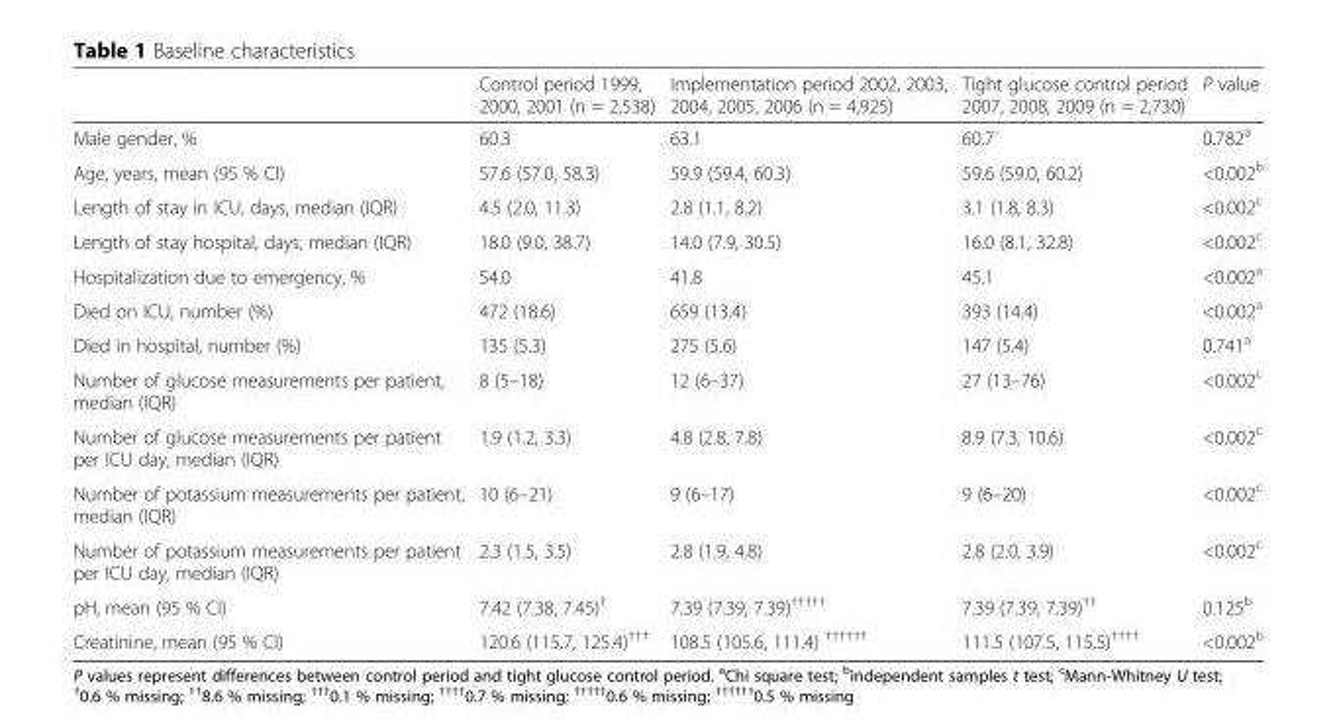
<table><thead><tr><td></td><td>Control period 1999, 2000, 2001 (n = 2,538)</td><td>Implementation period 2002, 2003, 2004, 2005, 2006 (n = 4,925)</td><td>Tight glucose control period 2007, 2008, 2009 (n = 2,730)</td><td>P value</td></tr></thead><tbody><tr><td>Male gender, %</td><td>60.3</td><td>63.1</td><td>60.7</td><td>0.782<sup>a</sup></td></tr><tr><td>Age, years, mean (95 % CI)</td><td>57.6 (57.0, 58.3)</td><td>59.9 (59.4, 60.3)</td><td>59.6 (59.0, 60.2)</td><td>&lt;0.002<sup>b</sup></td></tr><tr><td>Length of stay in ICU, days, median (IQR)</td><td>4.5 (2.0, 11.3)</td><td>2.8 (1.1, 8.2)</td><td>3.1 (1.8, 8.3)</td><td>&lt;0.002<sup>c</sup></td></tr><tr><td>Length of stay hospital, days, median (IQR)</td><td>18.0 (9.0, 38.7)</td><td>14.0 (7.9, 30.5)</td><td>16.0 (8.1, 32.8)</td><td>&lt;0.002<sup>c</sup></td></tr><tr><td>Hospitalization due to emergency, %</td><td>54.0</td><td>41.8</td><td>45.1</td><td>&lt;0.002<sup>a</sup></td></tr><tr><td>Died on ICU, number (%)</td><td>472 (18.6)</td><td>659 (13.4)</td><td>393 (14.4)</td><td>&lt;0.002<sup>a</sup></td></tr><tr><td>Died in hospital, number (%)</td><td>135 (5.3)</td><td>275 (5.6)</td><td>147 (5.4)</td><td>0.741<sup>a</sup></td></tr><tr><td>Number of glucose measurements per patient, median (IQR)</td><td>8 (5–18)</td><td>12 (6–37)</td><td>27 (13–76)</td><td>&lt;0.002<sup>c</sup></td></tr><tr><td>Number of glucose measurements per patient per ICU day, median (IQR)</td><td>1.9 (1.2, 3.3)</td><td>4.8 (2.8, 7.8)</td><td>8.9 (7.3, 10.6)</td><td>&lt;0.002<sup>c</sup></td></tr><tr><td>Number of potassium measurements per patient, median (IQR)</td><td>10 (6–21)</td><td>9 (6–17)</td><td>9 (6–20)</td><td>&lt;0.002<sup>c</sup></td></tr><tr><td>Number of potassium measurements per patient per ICU day, median (IQR)</td><td>2.3 (1.5, 3.5)</td><td>2.8 (1.9, 4.8)</td><td>2.8 (2.0, 3.9)</td><td>&lt;0.002<sup>c</sup></td></tr><tr><td>pH, mean (95 % CI)</td><td>7.42 (7.38, 7.45)<sup>†</sup></td><td>7.39 (7.39, 7.39)<sup>†††††</sup></td><td>7.39 (7.39, 7.39)<sup>††</sup></td><td>0.125<sup>b</sup></td></tr><tr><td>Creatinine, mean (95 % CI)</td><td>120.6 (115.7, 125.4)<sup>†††</sup></td><td>108.5 (105.6, 111.4) <sup>††††††</sup></td><td>111.5 (107.5, 115.5)<sup>††††</sup></td><td>&lt;0.002<sup>b</sup></td></tr></tbody></table>